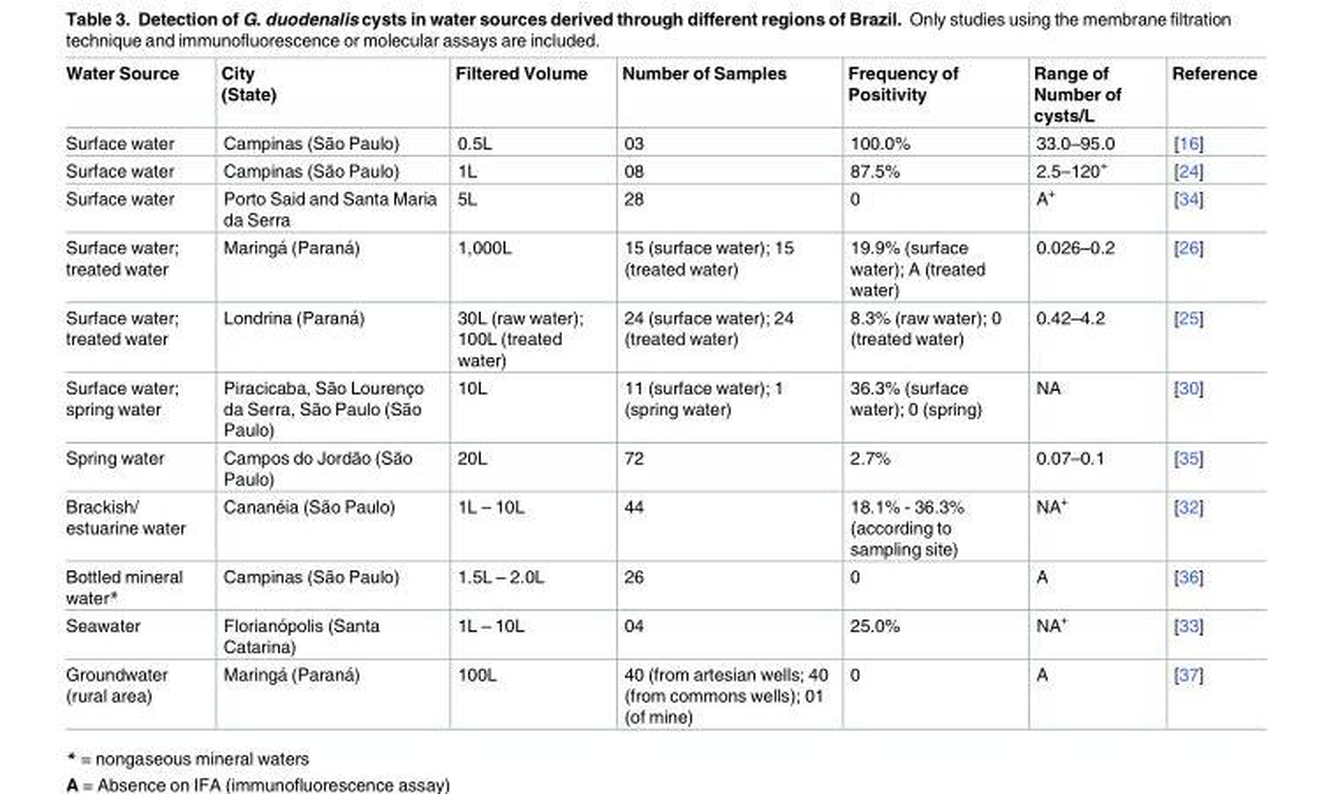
<table><thead><tr><td>Water Source</td><td>City (State)</td><td>Filtered Volume</td><td>Number of Samples</td><td>Frequency of Positivity</td><td>Range of Number of cysts/L</td><td>Reference</td></tr></thead><tbody><tr><td>Surface water</td><td>Campinas (São Paulo)</td><td>0.5L</td><td>03</td><td>100.0%</td><td>33.0–95.0</td><td>[16]</td></tr><tr><td>Surface water</td><td>Campinas (São Paulo)</td><td>1L</td><td>08</td><td>87.5%</td><td>2.5–120<sup>+</sup></td><td>[24]</td></tr><tr><td>Surface water</td><td>Porto Said and Santa Maria da Serra</td><td>5L</td><td>28</td><td>0</td><td>A<sup>+</sup></td><td>[34]</td></tr><tr><td>Surface water; treated water</td><td>Maringa´ (Parana´)</td><td>1,000L</td><td>15 (surface water); 15 (treated water)</td><td>19.9% (surface water); A (treated water)</td><td>0.026–0.2</td><td>[26]</td></tr><tr><td>Surface water; treated water</td><td>Londrina (Parana´)</td><td>30L (raw water); 100L (treated water)</td><td>24 (surface water); 24 (treated water)</td><td>8.3% (raw water); 0 (treated water)</td><td>0.42–4.2</td><td>[25]</td></tr><tr><td>Surface water; spring water</td><td>Piracicaba, São Lourenc¸o da Serra, São Paulo (São Paulo)</td><td>10L</td><td>11 (surface water); 1 (spring water)</td><td>36.3% (surface water); 0 (spring)</td><td>NA</td><td>[30]</td></tr><tr><td>Spring water</td><td>Campos do Jordão (São Paulo)</td><td>20L</td><td>72</td><td>2.7%</td><td>0.07–0.1</td><td>[35]</td></tr><tr><td>Brackish/ estuarine water</td><td>Canane´ia (São Paulo)</td><td>1L – 10L</td><td>44</td><td>18.1% - 36.3% (according to sampling site)</td><td>NA<sup>+</sup></td><td>[32]</td></tr><tr><td>Bottled mineral water*</td><td>Campinas (São Paulo)</td><td>1.5L – 2.0L</td><td>26</td><td>0</td><td>A</td><td>[36]</td></tr><tr><td>Seawater</td><td>Floriano´polis (Santa Catarina)</td><td>1L – 10L</td><td>04</td><td>25.0%</td><td>NA<sup>+</sup></td><td>[33]</td></tr><tr><td>Groundwater (rural area)</td><td>Maringa´ (Parana´)</td><td>100L</td><td>40 (from artesian wells; 40 (from commons wells); 01 (of mine)</td><td>0</td><td>A</td><td>[37]</td></tr></tbody></table>